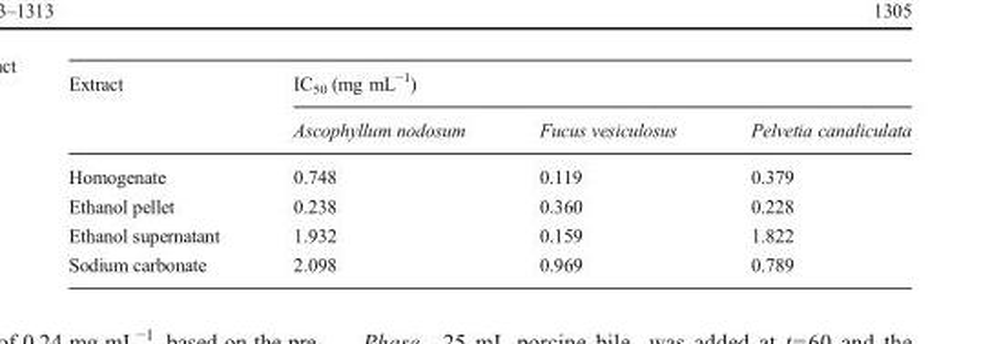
<table><thead><tr><td rowspan="2">Extract</td><td colspan="3">IC<sub>50</sub> (mg mL<sup>−1</sup>)</td></tr><tr><td>Ascophyllum nodosum</td><td>Fucus vesiculosus</td><td>Pelvetia canaliculata</td></tr></thead><tbody><tr><td>Homogenate</td><td>0.748</td><td>0.119</td><td>0.379</td></tr><tr><td>Ethanol pellet</td><td>0.238</td><td>0.360</td><td>0.228</td></tr><tr><td>Ethanol supernatant</td><td>1.932</td><td>0.159</td><td>1.822</td></tr><tr><td>Sodium carbonate</td><td>2.098</td><td>0.969</td><td>0.789</td></tr></tbody></table>